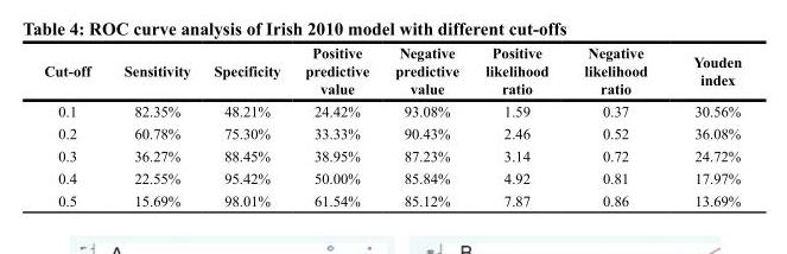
<table><thead><tr><td>Cut-off</td><td>Sensitivity</td><td>Specificity</td><td>Positive predictive value</td><td>Negative predictive value</td><td>Positive likelihood ratio</td><td>Negative likelihood ratio</td><td>Youden index</td></tr></thead><tbody><tr><td>0.1</td><td>82.35%</td><td>48.21%</td><td>24.42%</td><td>93.08%</td><td>1.59</td><td>0.37</td><td>30.56%</td></tr><tr><td>0.2</td><td>60.78%</td><td>75.30%</td><td>33.33%</td><td>90.43%</td><td>2.46</td><td>0.52</td><td>36.08%</td></tr><tr><td>0.3</td><td>36.27%</td><td>88.45%</td><td>38.95%</td><td>87.23%</td><td>3.14</td><td>0.72</td><td>24.72%</td></tr><tr><td>0.4</td><td>22.55%</td><td>95.42%</td><td>50.00%</td><td>85.84%</td><td>4.92</td><td>0.81</td><td>17.97%</td></tr><tr><td>0.5</td><td>15.69%</td><td>98.01%</td><td>61.54%</td><td>85.12%</td><td>7.87</td><td>0.86</td><td>13.69%</td></tr></tbody></table>